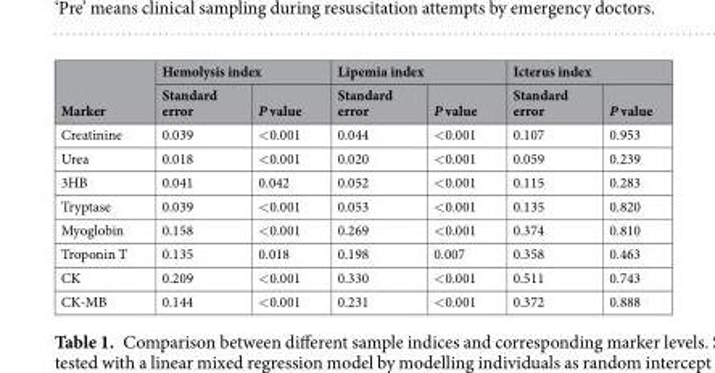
<table><thead><tr><td rowspan="2">Marker</td><td colspan="2">Hemolysis index</td><td colspan="2">Lipemia index</td><td colspan="2">Icterus index</td></tr><tr><td>Standard error</td><td>P value</td><td>Standard error</td><td>P value</td><td>Standard error</td><td>P value</td></tr></thead><tbody><tr><td>Creatinine</td><td>0.039</td><td>&lt;0.001</td><td>0.044</td><td>&lt;0.001</td><td>0.107</td><td>0.953</td></tr><tr><td>Urea</td><td>0.018</td><td>&lt;0.001</td><td>0.020</td><td>&lt;0.001</td><td>0.059</td><td>0.239</td></tr><tr><td>3HB</td><td>0.041</td><td>0.042</td><td>0.052</td><td>&lt;0.001</td><td>0.115</td><td>0.283</td></tr><tr><td>Tryptase</td><td>0.039</td><td>&lt;0.001</td><td>0.053</td><td>&lt;0.001</td><td>0.135</td><td>0.820</td></tr><tr><td>Myoglobin</td><td>0.158</td><td>&lt;0.001</td><td>0.269</td><td>&lt;0.001</td><td>0.374</td><td>0.810</td></tr><tr><td>Troponin T</td><td>0.135</td><td>0.018</td><td>0.198</td><td>0.007</td><td>0.358</td><td>0.463</td></tr><tr><td>CK</td><td>0.209</td><td>&lt;0.001</td><td>0.330</td><td>&lt;0.001</td><td>0.511</td><td>0.743</td></tr><tr><td>CK-MB</td><td>0.144</td><td>&lt;0.001</td><td>0.231</td><td>&lt;0.001</td><td>0.372</td><td>0.888</td></tr></tbody></table>